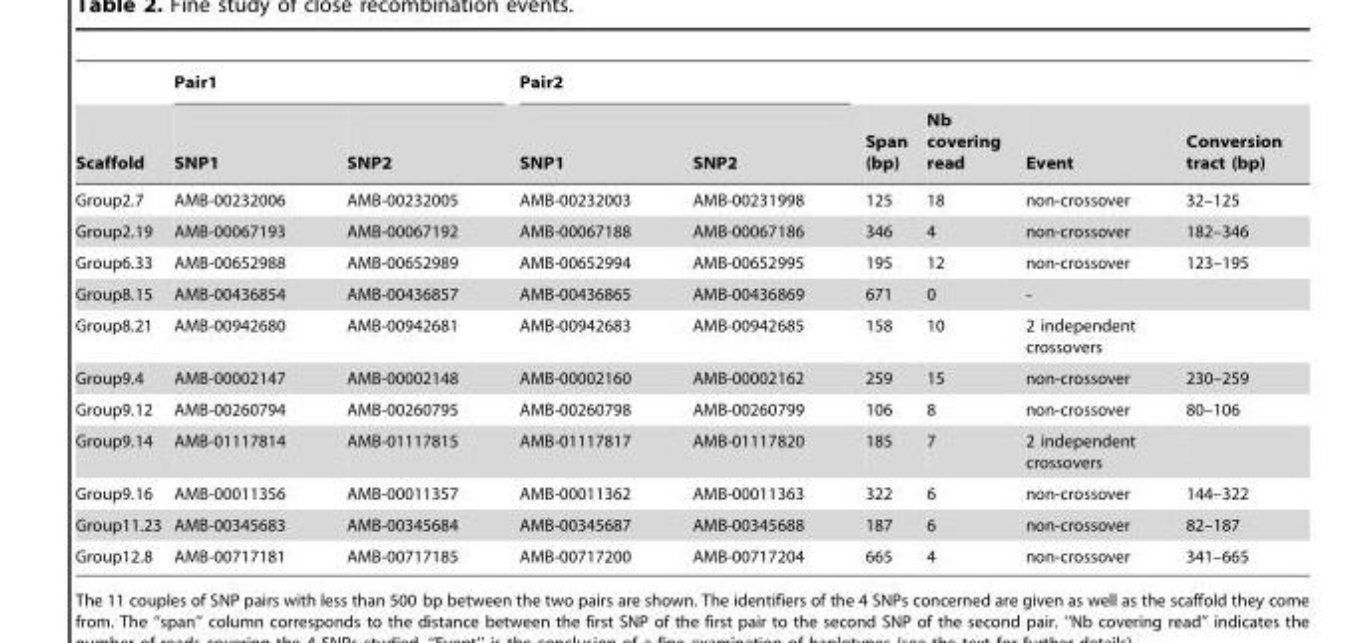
<table><thead><tr><td rowspan="2">Scaffold</td><td colspan="2">Pair1</td><td colspan="2">Pair2</td><td rowspan="2">Span (bp)</td><td rowspan="2">Nb covering read</td><td rowspan="2">Event</td><td rowspan="2">Conversion tract (bp)</td></tr><tr><td>SNP1</td><td>SNP2</td><td>SNP1</td><td>SNP2</td></tr></thead><tbody><tr><td>Group2.7</td><td>AMB-00232006</td><td>AMB-00232005</td><td>AMB-00232003</td><td>AMB-00231998</td><td>125</td><td>18</td><td>non-crossover</td><td>32–125</td></tr><tr><td>Group2.19</td><td>AMB-00067193</td><td>AMB-00067192</td><td>AMB-00067188</td><td>AMB-00067186</td><td>346</td><td>4</td><td>non-crossover</td><td>182–346</td></tr><tr><td>Group6.33</td><td>AMB-00652988</td><td>AMB-00652989</td><td>AMB-00652994</td><td>AMB-00652995</td><td>195</td><td>12</td><td>non-crossover</td><td>123–195</td></tr><tr><td>Group8.15</td><td>AMB-00436854</td><td>AMB-00436857</td><td>AMB-00436865</td><td>AMB-00436869</td><td>671</td><td>0</td><td>-</td><td></td></tr><tr><td>Group8.21</td><td>AMB-00942680</td><td>AMB-00942681</td><td>AMB-00942683</td><td>AMB-00942685</td><td>158</td><td>10</td><td>2 independent crossovers</td><td></td></tr><tr><td>Group9.4</td><td>AMB-00002147</td><td>AMB-00002148</td><td>AMB-00002160</td><td>AMB-00002162</td><td>259</td><td>15</td><td>non-crossover</td><td>230–259</td></tr><tr><td>Group9.12</td><td>AMB-00260794</td><td>AMB-00260795</td><td>AMB-00260798</td><td>AMB-00260799</td><td>106</td><td>8</td><td>non-crossover</td><td>80–106</td></tr><tr><td>Group9.14</td><td>AMB-01117814</td><td>AMB-01117815</td><td>AMB-01117817</td><td>AMB-01117820</td><td>185</td><td>7</td><td>2 independent crossovers</td><td></td></tr><tr><td>Group9.16</td><td>AMB-00011356</td><td>AMB-00011357</td><td>AMB-00011362</td><td>AMB-00011363</td><td>322</td><td>6</td><td>non-crossover</td><td>144–322</td></tr><tr><td>Group11.23</td><td>AMB-00345683</td><td>AMB-00345684</td><td>AMB-00345687</td><td>AMB-00345688</td><td>187</td><td>6</td><td>non-crossover</td><td>82–187</td></tr><tr><td>Group12.8</td><td>AMB-00717181</td><td>AMB-00717185</td><td>AMB-00717200</td><td>AMB-00717204</td><td>665</td><td>4</td><td>non-crossover</td><td>341–665</td></tr></tbody></table>